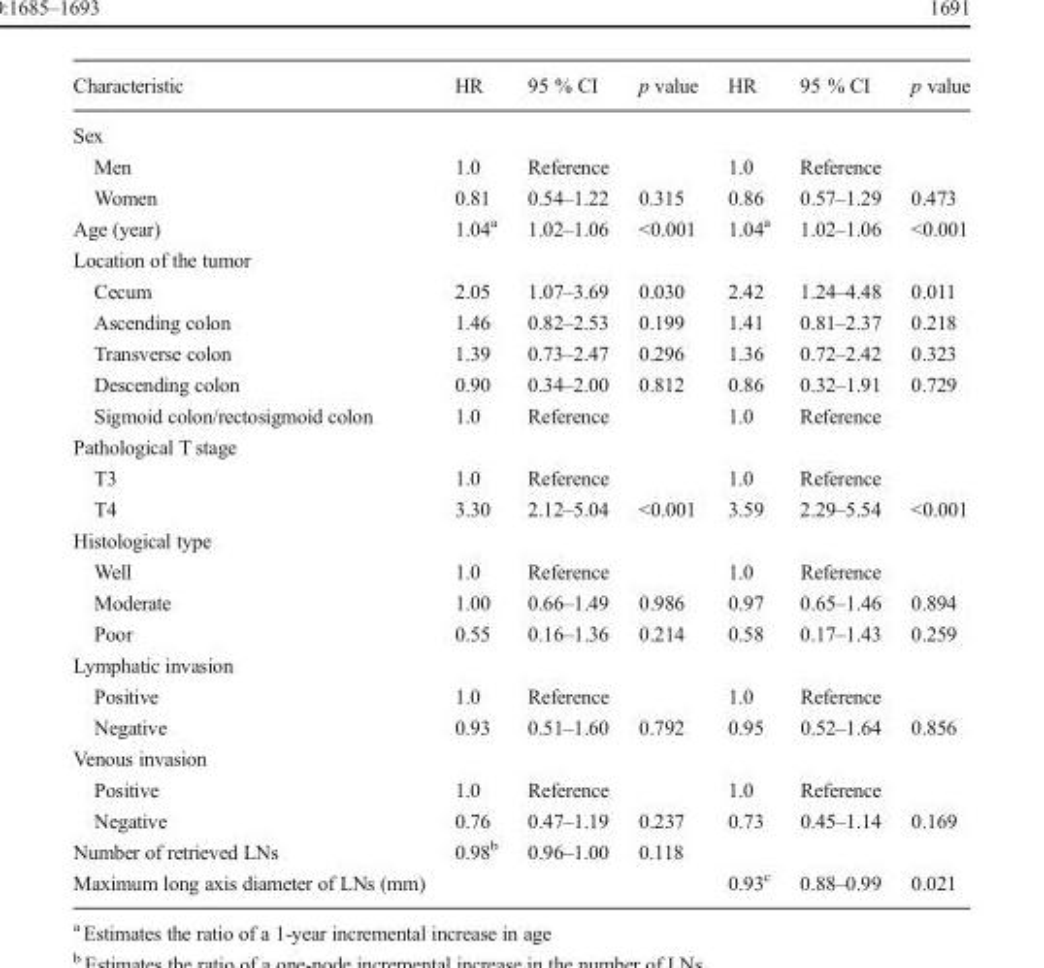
<table><thead><tr><td>Characteristic</td><td>HR</td><td>95 % CI</td><td>p value</td><td>HR</td><td>95 % CI</td><td>p value</td></tr></thead><tbody><tr><td colspan="7">Sex</td></tr><tr><td>Men</td><td>1.0</td><td>Reference</td><td></td><td>1.0</td><td>Reference</td><td></td></tr><tr><td>Women</td><td>0.81</td><td>0.54–1.22</td><td>0.315</td><td>0.86</td><td>0.57–1.29</td><td>0.473</td></tr><tr><td>Age (year)</td><td>1.04<sup>a</sup></td><td>1.02–1.06</td><td>&lt;0.001</td><td>1.04<sup>a</sup></td><td>1.02–1.06</td><td>&lt;0.001</td></tr><tr><td colspan="7">Location of the tumor</td></tr><tr><td>Cecum</td><td>2.05</td><td>1.07–3.69</td><td>0.030</td><td>2.42</td><td>1.24–4.48</td><td>0.011</td></tr><tr><td>Ascending colon</td><td>1.46</td><td>0.82–2.53</td><td>0.199</td><td>1.41</td><td>0.81–2.37</td><td>0.218</td></tr><tr><td>Transverse colon</td><td>1.39</td><td>0.73–2.47</td><td>0.296</td><td>1.36</td><td>0.72–2.42</td><td>0.323</td></tr><tr><td>Descending colon</td><td>0.90</td><td>0.34–2.00</td><td>0.812</td><td>0.86</td><td>0.32–1.91</td><td>0.729</td></tr><tr><td>Sigmoid colon/rectosigmoid colon</td><td>1.0</td><td>Reference</td><td></td><td>1.0</td><td>Reference</td><td></td></tr><tr><td colspan="7">Pathological T stage</td></tr><tr><td>T3</td><td>1.0</td><td>Reference</td><td></td><td>1.0</td><td>Reference</td><td></td></tr><tr><td>T4</td><td>3.30</td><td>2.12–5.04</td><td>&lt;0.001</td><td>3.59</td><td>2.29–5.54</td><td>&lt;0.001</td></tr><tr><td colspan="7">Histological type</td></tr><tr><td>Well</td><td>1.0</td><td>Reference</td><td></td><td>1.0</td><td>Reference</td><td></td></tr><tr><td>Moderate</td><td>1.00</td><td>0.66–1.49</td><td>0.986</td><td>0.97</td><td>0.65–1.46</td><td>0.894</td></tr><tr><td>Poor</td><td>0.55</td><td>0.16–1.36</td><td>0.214</td><td>0.58</td><td>0.17–1.43</td><td>0.259</td></tr><tr><td colspan="7">Lymphatic invasion</td></tr><tr><td>Positive</td><td>1.0</td><td>Reference</td><td></td><td>1.0</td><td>Reference</td><td></td></tr><tr><td>Negative</td><td>0.93</td><td>0.51–1.60</td><td>0.792</td><td>0.95</td><td>0.52–1.64</td><td>0.856</td></tr><tr><td colspan="7">Venous invasion</td></tr><tr><td>Positive</td><td>1.0</td><td>Reference</td><td></td><td>1.0</td><td>Reference</td><td></td></tr><tr><td>Negative</td><td>0.76</td><td>0.47–1.19</td><td>0.237</td><td>0.73</td><td>0.45–1.14</td><td>0.169</td></tr><tr><td>Number of retrieved LNs</td><td>0.98<sup>b</sup></td><td>0.96–1.00</td><td>0.118</td><td></td><td></td><td></td></tr><tr><td>Maximum long axis diameter of LNs (mm)</td><td></td><td></td><td></td><td>0.93<sup>c</sup></td><td>0.88–0.99</td><td>0.021</td></tr></tbody></table>